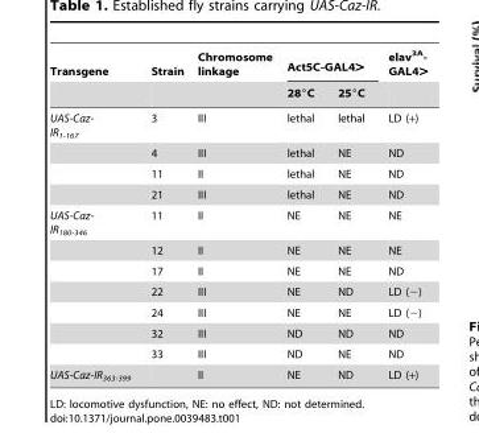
<table><thead><tr><td rowspan="2">Transgene</td><td rowspan="2">Strain</td><td rowspan="2">Chromosome linkage</td><td colspan="2">Act5C-GAL4&gt;</td><td rowspan="2">elav<sup>3A</sup>- GAL4&gt;</td></tr><tr><td>28°C</td><td>25°C</td></tr></thead><tbody><tr><td rowspan="4">UAS-Caz- IR<sub>1-167</sub></td><td>3</td><td>III</td><td>lethal</td><td>lethal</td><td>LD (+)</td></tr><tr><td>4</td><td>III</td><td>lethal</td><td>NE</td><td>ND</td></tr><tr><td>11</td><td>II</td><td>lethal</td><td>NE</td><td>ND</td></tr><tr><td>21</td><td>III</td><td>lethal</td><td>NE</td><td>ND</td></tr><tr><td rowspan="7">UAS-Caz- IR<sub>180-346</sub></td><td>11</td><td>II</td><td>NE</td><td>NE</td><td>NE</td></tr><tr><td>12</td><td>II</td><td>NE</td><td>NE</td><td>NE</td></tr><tr><td>17</td><td>II</td><td>NE</td><td>NE</td><td>ND</td></tr><tr><td>22</td><td>III</td><td>NE</td><td>ND</td><td>LD (−)</td></tr><tr><td>24</td><td>III</td><td>NE</td><td>NE</td><td>LD (−)</td></tr><tr><td>32</td><td>III</td><td>ND</td><td>ND</td><td>ND</td></tr><tr><td>33</td><td>III</td><td>ND</td><td>NE</td><td>ND</td></tr><tr><td>UAS-Caz-IR<sub>363-399</sub></td><td></td><td>II</td><td>NE</td><td>ND</td><td>LD (+)</td></tr></tbody></table>